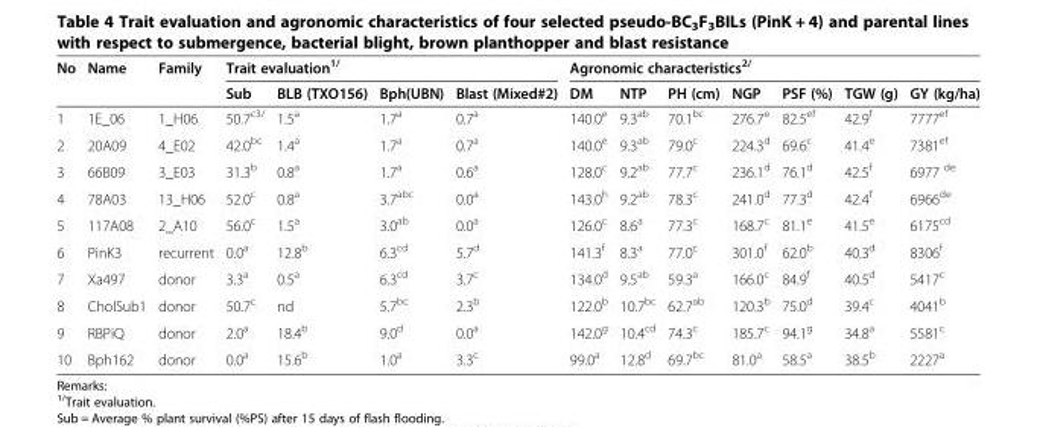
<table><thead><tr><td rowspan="2">No</td><td rowspan="2">Name</td><td rowspan="2">Family</td><td colspan="4">Trait evaluation<sup>1/</sup></td><td colspan="7">Agronomic characteristics<sup>2/</sup></td></tr><tr><td>Sub</td><td>BLB (TXO156)</td><td>Bph(UBN)</td><td>Blast (Mixed#2)</td><td>DM</td><td>NTP</td><td>PH (cm)</td><td>NGP</td><td>PSF (%)</td><td>TGW (g)</td><td>GY (kg/ha)</td></tr></thead><tbody><tr><td>1</td><td>1E_06</td><td>1_H06</td><td>50.7<sup>c3/</sup></td><td>1.5<sup>a</sup></td><td>1.7<sup>a</sup></td><td>0.7<sup>a</sup></td><td>140.0<sup>e</sup></td><td>9.3<sup>ab</sup></td><td>70.1<sup>bc</sup></td><td>276.7<sup>e</sup></td><td>82.5<sup>ef</sup></td><td>42.9<sup>f</sup></td><td>7777<sup>ef</sup></td></tr><tr><td>2</td><td>20A09</td><td>4_E02</td><td>42.0<sup>bc</sup></td><td>1.4<sup>a</sup></td><td>1.7<sup>a</sup></td><td>0.7<sup>a</sup></td><td>140.0<sup>e</sup></td><td>9.3<sup>ab</sup></td><td>79.0<sup>c</sup></td><td>224.3<sup>d</sup></td><td>69.6<sup>c</sup></td><td>41.4<sup>e</sup></td><td>7381<sup>ef</sup></td></tr><tr><td>3</td><td>66B09</td><td>3_E03</td><td>31.3<sup>b</sup></td><td>0.8<sup>a</sup></td><td>1.7<sup>a</sup></td><td>0.6<sup>a</sup></td><td>128.0<sup>c</sup></td><td>9.2<sup>ab</sup></td><td>77.7<sup>c</sup></td><td>236.1<sup>d</sup></td><td>76.1<sup>d</sup></td><td>42.5<sup>f</sup></td><td>6977 <sup>de</sup></td></tr><tr><td>4</td><td>78A03</td><td>13_H06</td><td>52.0<sup>c</sup></td><td>0.8<sup>a</sup></td><td>3.7<sup>abc</sup></td><td>0.0<sup>a</sup></td><td>143.0<sup>h</sup></td><td>9.2<sup>ab</sup></td><td>78.3<sup>c</sup></td><td>241.0<sup>d</sup></td><td>77.3<sup>d</sup></td><td>42.4<sup>f</sup></td><td>6966<sup>de</sup></td></tr><tr><td>5</td><td>117A08</td><td>2_A10</td><td>56.0<sup>c</sup></td><td>1.5<sup>a</sup></td><td>3.0<sup>ab</sup></td><td>0.0<sup>a</sup></td><td>126.0<sup>c</sup></td><td>8.6<sup>a</sup></td><td>77.3<sup>c</sup></td><td>168.7<sup>c</sup></td><td>81.1<sup>e</sup></td><td>41.5<sup>e</sup></td><td>6175<sup>cd</sup></td></tr><tr><td>6</td><td>PinK3</td><td>recurrent</td><td>0.0<sup>a</sup></td><td>12.8<sup>b</sup></td><td>6.3<sup>cd</sup></td><td>5.7<sup>d</sup></td><td>141.3<sup>f</sup></td><td>8.3<sup>a</sup></td><td>77.0<sup>c</sup></td><td>301.0<sup>f</sup></td><td>62.0<sup>b</sup></td><td>40.3<sup>d</sup></td><td>8306<sup>f</sup></td></tr><tr><td>7</td><td>Xa497</td><td>donor</td><td>3.3<sup>a</sup></td><td>0.5<sup>a</sup></td><td>6.3<sup>cd</sup></td><td>3.7<sup>c</sup></td><td>134.0<sup>d</sup></td><td>9.5<sup>ab</sup></td><td>59.3<sup>a</sup></td><td>166.0<sup>c</sup></td><td>84.9<sup>f</sup></td><td>40.5<sup>d</sup></td><td>5417<sup>c</sup></td></tr><tr><td>8</td><td>CholSub1</td><td>donor</td><td>50.7<sup>c</sup></td><td>nd</td><td>5.7<sup>bc</sup></td><td>2.3<sup>b</sup></td><td>122.0<sup>b</sup></td><td>10.7<sup>bc</sup></td><td>62.7<sup>ab</sup></td><td>120.3<sup>b</sup></td><td>75.0<sup>d</sup></td><td>39.4<sup>c</sup></td><td>4041<sup>b</sup></td></tr><tr><td>9</td><td>RBPiQ</td><td>donor</td><td>2.0<sup>a</sup></td><td>18.4<sup>b</sup></td><td>9.0<sup>d</sup></td><td>0.0<sup>a</sup></td><td>142.0<sup>g</sup></td><td>10.4<sup>cd</sup></td><td>74.3<sup>c</sup></td><td>185.7<sup>c</sup></td><td>94.1<sup>g</sup></td><td>34.8<sup>a</sup></td><td>5581<sup>c</sup></td></tr><tr><td>10</td><td>Bph162</td><td>donor</td><td>0.0<sup>a</sup></td><td>15.6<sup>b</sup></td><td>1.0<sup>a</sup></td><td>3.3<sup>c</sup></td><td>99.0<sup>a</sup></td><td>12.8<sup>d</sup></td><td>69.7<sup>bc</sup></td><td>81.0<sup>a</sup></td><td>58.5<sup>a</sup></td><td>38.5<sup>b</sup></td><td>2227<sup>a</sup></td></tr></tbody></table>